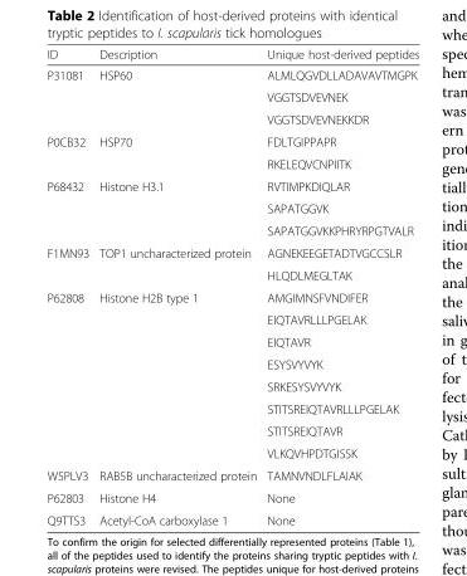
<table><thead><tr><td>ID</td><td>Description</td><td>Unique host-derived peptides</td></tr></thead><tbody><tr><td rowspan="3">P31081</td><td rowspan="3">HSP60</td><td>ALMLQGVDLLADAVAVTMGPK</td></tr><tr><td>VGGTSDVEVNEK</td></tr><tr><td>VGGTSDVEVNEKKDR</td></tr><tr><td rowspan="2">P0CB32</td><td rowspan="2">HSP70</td><td>FDLTGIPPAPR</td></tr><tr><td>RKELEQVCNPIITK</td></tr><tr><td rowspan="3">P68432</td><td rowspan="3">Histone H3.1</td><td>RVTIMPKDIQLAR</td></tr><tr><td>SAPATGGVK</td></tr><tr><td>SAPATGGVKKPHRYRPGTVALR</td></tr><tr><td rowspan="2">F1MN93</td><td rowspan="2">TOP1 uncharacterized protein</td><td>AGNEKEEGETADTVGCCSLR</td></tr><tr><td>HLQDLMEGLTAK</td></tr><tr><td rowspan="8">P62808</td><td rowspan="8">Histone H2B type 1</td><td>AMGIMNSFVNDIFER</td></tr><tr><td>EIQTAVRLLLPGELAK</td></tr><tr><td>EIQTAVR</td></tr><tr><td>ESYSVYVYK</td></tr><tr><td>SRKESYSVYVYK</td></tr><tr><td>STITSREIQTAVRLLLPGELAK</td></tr><tr><td>STITSREIQTAVR</td></tr><tr><td>VLKQVHPDTGISSK</td></tr><tr><td>W5PLV3</td><td>RAB5B uncharacterized protein</td><td>TAMNVNDLFLAIAK</td></tr><tr><td>P62803</td><td>Histone H4</td><td>None</td></tr><tr><td>Q9TTS3</td><td>Acetyl-CoA carboxylase 1</td><td>None</td></tr></tbody></table>